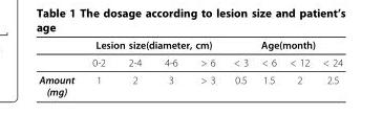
<table><thead><tr><td rowspan="2"></td><td colspan="4">Lesion size(diameter, cm)</td><td colspan="4">Age(month)</td></tr><tr><td>0-2</td><td>2-4</td><td>4-6</td><td>&gt; 6</td><td>&lt; 3</td><td>&lt; 6</td><td>&lt; 12</td><td>&lt; 24</td></tr></thead><tbody><tr><td>Amount (mg)</td><td>1</td><td>2</td><td>3</td><td>&gt; 3</td><td>0.5</td><td>1.5</td><td>2</td><td>2.5</td></tr></tbody></table>